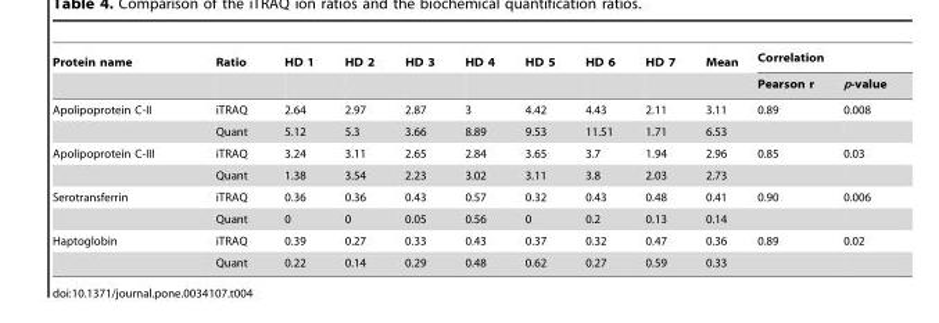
<table><thead><tr><td rowspan="2">Protein name</td><td rowspan="2">Ratio</td><td rowspan="2">HD 1</td><td rowspan="2">HD 2</td><td rowspan="2">HD 3</td><td rowspan="2">HD 4</td><td rowspan="2">HD 5</td><td rowspan="2">HD 6</td><td rowspan="2">HD 7</td><td rowspan="2">Mean</td><td colspan="2">Correlation</td></tr><tr><td>Pearson r</td><td>p-value</td></tr></thead><tbody><tr><td rowspan="2">Apolipoprotein C-II</td><td>iTRAQ</td><td>2.64</td><td>2.97</td><td>2.87</td><td>3</td><td>4.42</td><td>4.43</td><td>2.11</td><td>3.11</td><td>0.89</td><td>0.008</td></tr><tr><td>Quant</td><td>5.12</td><td>5.3</td><td>3.66</td><td>8.89</td><td>9.53</td><td>11.51</td><td>1.71</td><td>6.53</td><td></td><td></td></tr><tr><td rowspan="2">Apolipoprotein C-III</td><td>iTRAQ</td><td>3.24</td><td>3.11</td><td>2.65</td><td>2.84</td><td>3.65</td><td>3.7</td><td>1.94</td><td>2.96</td><td>0.85</td><td>0.03</td></tr><tr><td>Quant</td><td>1.38</td><td>3.54</td><td>2.23</td><td>3.02</td><td>3.11</td><td>3.8</td><td>2.03</td><td>2.73</td><td></td><td></td></tr><tr><td rowspan="2">Serotransferrin</td><td>iTRAQ</td><td>0.36</td><td>0.36</td><td>0.43</td><td>0.57</td><td>0.32</td><td>0.43</td><td>0.48</td><td>0.41</td><td>0.90</td><td>0.006</td></tr><tr><td>Quant</td><td>0</td><td>0</td><td>0.05</td><td>0.56</td><td>0</td><td>0.2</td><td>0.13</td><td>0.14</td><td></td><td></td></tr><tr><td rowspan="2">Haptoglobin</td><td>iTRAQ</td><td>0.39</td><td>0.27</td><td>0.33</td><td>0.43</td><td>0.37</td><td>0.32</td><td>0.47</td><td>0.36</td><td>0.89</td><td>0.02</td></tr><tr><td>Quant</td><td>0.22</td><td>0.14</td><td>0.29</td><td>0.48</td><td>0.62</td><td>0.27</td><td>0.59</td><td>0.33</td><td></td><td></td></tr></tbody></table>